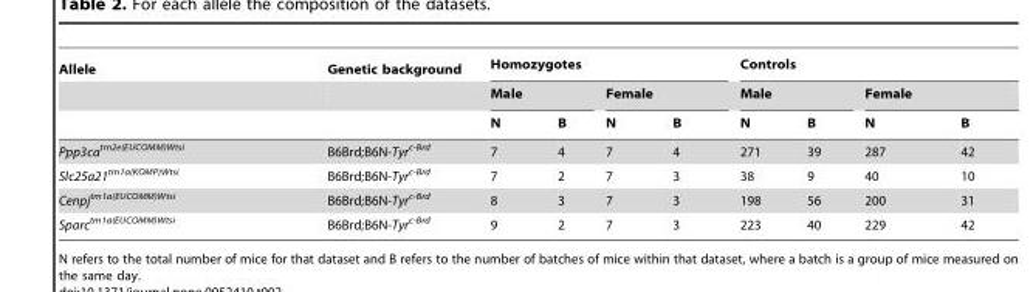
<table><thead><tr><td rowspan="3">Allele</td><td rowspan="3">Genetic background</td><td colspan="4">Homozygotes</td><td colspan="4">Controls</td></tr><tr><td colspan="2">Male</td><td colspan="2">Female</td><td colspan="2">Male</td><td colspan="2">Female</td></tr><tr><td>N</td><td>B</td><td>N</td><td>B</td><td>N</td><td>B</td><td>N</td><td>B</td></tr></thead><tbody><tr><td>Ppp3ca<sup>tm2e(EUCOMM)Wtsi</sup></td><td>B6Brd;B6N-Tyr<sup>c-Brd</sup></td><td>7</td><td>4</td><td>7</td><td>4</td><td>271</td><td>39</td><td>287</td><td>42</td></tr><tr><td>Slc25a21<sup>tm1a(KOMP)Wtsi</sup></td><td>B6Brd;B6N-Tyr<sup>c-Brd</sup></td><td>7</td><td>2</td><td>7</td><td>3</td><td>38</td><td>9</td><td>40</td><td>10</td></tr><tr><td>Cenpj<sup>tm1a(EUCOMM)Wtsi</sup></td><td>B6Brd;B6N-Tyr<sup>c-Brd</sup></td><td>8</td><td>3</td><td>7</td><td>3</td><td>198</td><td>56</td><td>200</td><td>31</td></tr><tr><td>Sparc<sup>tm1a(EUCOMM)Wtsi</sup></td><td>B6Brd;B6N-Tyr<sup>c-Brd</sup></td><td>9</td><td>2</td><td>7</td><td>3</td><td>223</td><td>40</td><td>229</td><td>42</td></tr></tbody></table>